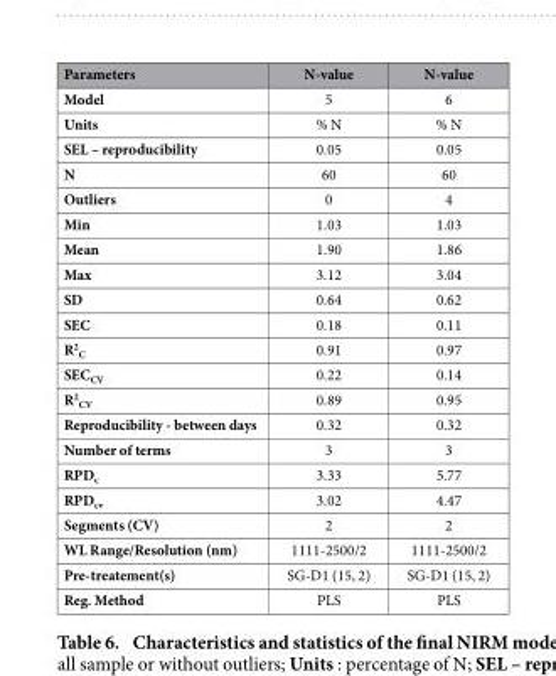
<table><thead><tr><td>Parameters</td><td>N-value</td><td>N-value</td></tr></thead><tbody><tr><td>Model</td><td>5</td><td>6</td></tr><tr><td>Units</td><td>% N</td><td>% N</td></tr><tr><td>SEL – reproducibility</td><td>0.05</td><td>0.05</td></tr><tr><td>N</td><td>60</td><td>60</td></tr><tr><td>Outliers</td><td>0</td><td>4</td></tr><tr><td>Min</td><td>1.03</td><td>1.03</td></tr><tr><td>Mean</td><td>1.90</td><td>1.86</td></tr><tr><td>Max</td><td>3.12</td><td>3.04</td></tr><tr><td>SD</td><td>0.64</td><td>0.62</td></tr><tr><td>SEC</td><td>0.18</td><td>0.11</td></tr><tr><td>R<sup>2</sup> <sub>C</sub></td><td>0.91</td><td>0.97</td></tr><tr><td>SEC<sub>CV</sub></td><td>0.22</td><td>0.14</td></tr><tr><td>R<sup>2</sup> <sub>CV</sub></td><td>0.89</td><td>0.95</td></tr><tr><td>Reproducibility - between days</td><td>0.32</td><td>0.32</td></tr><tr><td>Number of terms</td><td>3</td><td>3</td></tr><tr><td>RPD<sub>c</sub></td><td>3.33</td><td>5.77</td></tr><tr><td>RPD<sub>cv</sub></td><td>3.02</td><td>4.47</td></tr><tr><td>Segments (CV)</td><td>2</td><td>2</td></tr><tr><td>WL Range/Resolution (nm)</td><td>1111-2500/2</td><td>1111-2500/2</td></tr><tr><td>Pre-treatement(s)</td><td>SG-D1 (15, 2)</td><td>SG-D1 (15, 2)</td></tr><tr><td>Reg. Method</td><td>PLS</td><td>PLS</td></tr></tbody></table>